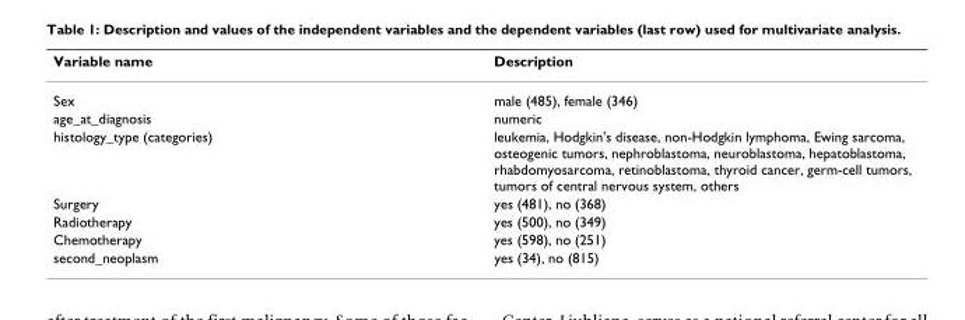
<table><thead><tr><td>Variable name</td><td>Description</td></tr></thead><tbody><tr><td>Sex</td><td>male (485), female (346)</td></tr><tr><td>age_at_diagnosis</td><td>numeric</td></tr><tr><td>histology_type (categories)</td><td>leukemia, Hodgkin&#x27;s disease, non-Hodgkin lymphoma, Ewing sarcoma, osteogenic tumors, nephroblastoma, neuroblastoma, hepatoblastoma, rhabdomyosarcoma, retinoblastoma, thyroid cancer, germ-cell tumors, tumors of central nervous system, others</td></tr><tr><td>Surgery</td><td>yes (481), no (368)</td></tr><tr><td>Radiotherapy</td><td>yes (500), no (349)</td></tr><tr><td>Chemotherapy</td><td>yes (598), no (251)</td></tr><tr><td>second_neoplasm</td><td>yes (34), no (815)</td></tr></tbody></table>